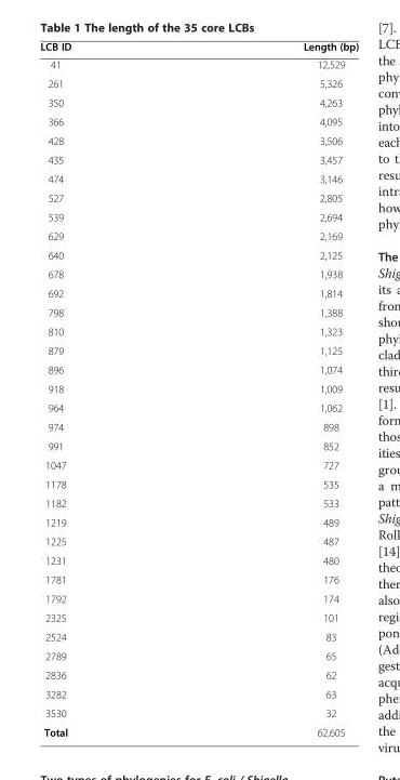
<table><thead><tr><td>LCB ID</td><td>Length (bp)</td></tr></thead><tbody><tr><td>41</td><td>12,529</td></tr><tr><td>261</td><td>5,326</td></tr><tr><td>350</td><td>4,263</td></tr><tr><td>366</td><td>4,095</td></tr><tr><td>428</td><td>3,506</td></tr><tr><td>435</td><td>3,457</td></tr><tr><td>474</td><td>3,146</td></tr><tr><td>527</td><td>2,805</td></tr><tr><td>539</td><td>2,694</td></tr><tr><td>629</td><td>2,169</td></tr><tr><td>640</td><td>2,125</td></tr><tr><td>678</td><td>1,938</td></tr><tr><td>692</td><td>1,814</td></tr><tr><td>798</td><td>1,388</td></tr><tr><td>810</td><td>1,323</td></tr><tr><td>879</td><td>1,125</td></tr><tr><td>896</td><td>1,074</td></tr><tr><td>918</td><td>1,009</td></tr><tr><td>964</td><td>1,062</td></tr><tr><td>974</td><td>898</td></tr><tr><td>991</td><td>852</td></tr><tr><td>1047</td><td>727</td></tr><tr><td>1178</td><td>535</td></tr><tr><td>1182</td><td>533</td></tr><tr><td>1219</td><td>489</td></tr><tr><td>1225</td><td>487</td></tr><tr><td>1231</td><td>480</td></tr><tr><td>1781</td><td>176</td></tr><tr><td>1792</td><td>174</td></tr><tr><td>2325</td><td>101</td></tr><tr><td>2524</td><td>83</td></tr><tr><td>2789</td><td>65</td></tr><tr><td>2836</td><td>62</td></tr><tr><td>3282</td><td>63</td></tr><tr><td>3530</td><td>32</td></tr><tr><td>Total</td><td>62,605</td></tr></tbody></table>